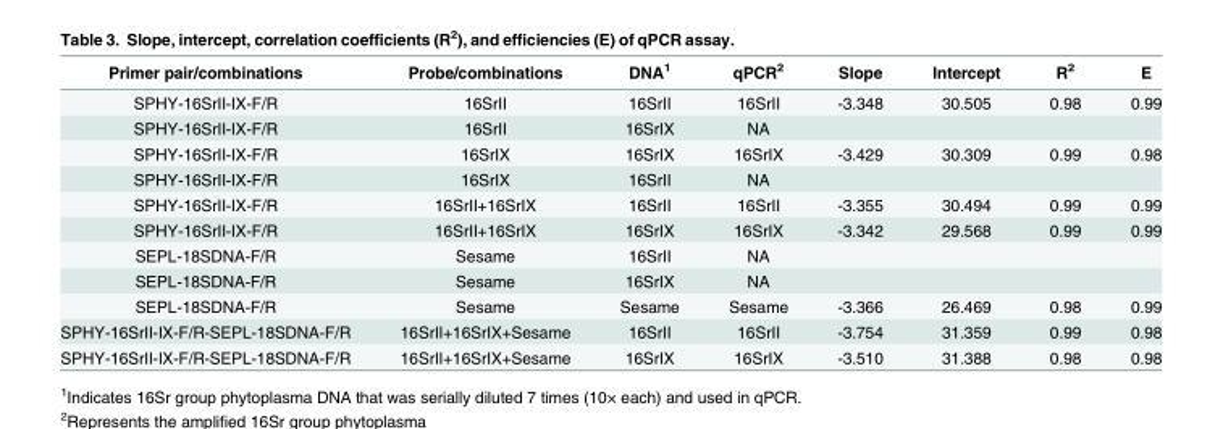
<table><thead><tr><td>Primer pair/combinations</td><td>Probe/combinations</td><td>DNA<sup>1</sup></td><td>qPCR<sup>2</sup></td><td>Slope</td><td>Intercept</td><td>R<sup>2</sup></td><td>E</td></tr></thead><tbody><tr><td>SPHY-16SrII-IX-F/R</td><td>16SrII</td><td>16SrII</td><td>16SrII</td><td>-3.348</td><td>30.505</td><td>0.98</td><td>0.99</td></tr><tr><td>SPHY-16SrII-IX-F/R</td><td>16SrII</td><td>16SrIX</td><td>NA</td><td></td><td></td><td></td><td></td></tr><tr><td>SPHY-16SrII-IX-F/R</td><td>16SrIX</td><td>16SrIX</td><td>16SrIX</td><td>-3.429</td><td>30.309</td><td>0.99</td><td>0.98</td></tr><tr><td>SPHY-16SrII-IX-F/R</td><td>16SrIX</td><td>16SrII</td><td>NA</td><td></td><td></td><td></td><td></td></tr><tr><td>SPHY-16SrII-IX-F/R</td><td>16SrII+16SrIX</td><td>16SrII</td><td>16SrII</td><td>-3.355</td><td>30.494</td><td>0.99</td><td>0.99</td></tr><tr><td>SPHY-16SrII-IX-F/R</td><td>16SrII+16SrIX</td><td>16SrIX</td><td>16SrIX</td><td>-3.342</td><td>29.568</td><td>0.99</td><td>0.99</td></tr><tr><td>SEPL-18SDNA-F/R</td><td>Sesame</td><td>16SrII</td><td>NA</td><td></td><td></td><td></td><td></td></tr><tr><td>SEPL-18SDNA-F/R</td><td>Sesame</td><td>16SrIX</td><td>NA</td><td></td><td></td><td></td><td></td></tr><tr><td>SEPL-18SDNA-F/R</td><td>Sesame</td><td>Sesame</td><td>Sesame</td><td>-3.366</td><td>26.469</td><td>0.98</td><td>0.99</td></tr><tr><td>SPHY-16SrII-IX-F/R-SEPL-18SDNA-F/R</td><td>16SrII+16SrIX+Sesame</td><td>16SrII</td><td>16SrII</td><td>-3.754</td><td>31.359</td><td>0.99</td><td>0.98</td></tr><tr><td>SPHY-16SrII-IX-F/R-SEPL-18SDNA-F/R</td><td>16SrII+16SrIX+Sesame</td><td>16SrIX</td><td>16SrIX</td><td>-3.510</td><td>31.388</td><td>0.98</td><td>0.98</td></tr></tbody></table>